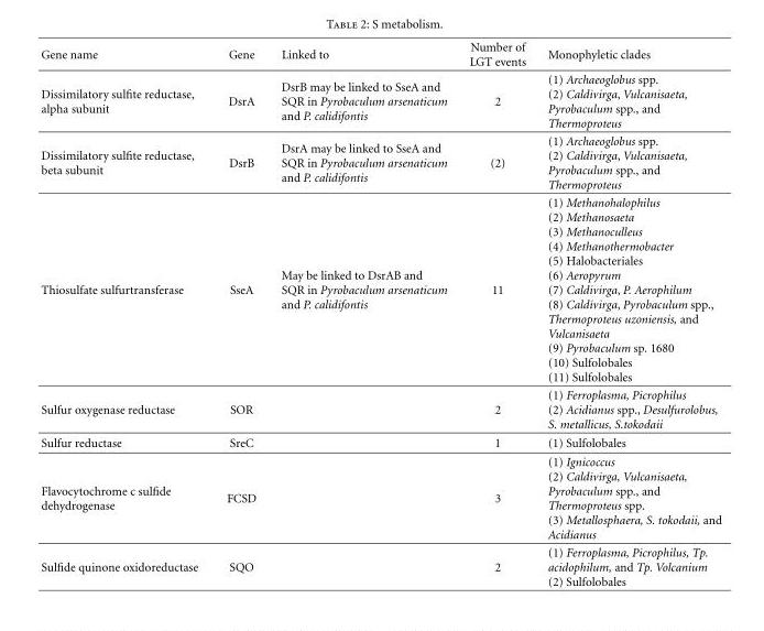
<table><thead><tr><td>Gene name</td><td>Gene</td><td>Linked to</td><td>Number of LGT events</td><td>Monophyletic clades</td></tr></thead><tbody><tr><td>Dissimilatory sulfite reductase, alpha subunit</td><td>DsrA</td><td>DsrB may be linked to SseA and SQR in Pyrobaculum arsenaticum and P. calidifontis</td><td>2</td><td>(1) Archaeoglobus spp. (2) Caldivirga, Vulcanisaeta, Pyrobaculum spp., and Thermoproteus</td></tr><tr><td>Dissimilatory sulfite reductase, beta subunit</td><td>DsrB</td><td>DsrA may be linked to SseA and SQR in Pyrobaculum arsenaticum and P. calidifontis</td><td>(2)</td><td>(1) Archaeoglobus spp. (2) Caldivirga, Vulcanisaeta, Pyrobaculum spp., and Thermoproteus</td></tr><tr><td>Thiosulfate sulfurtransferase</td><td>SseA</td><td>May be linked to DsrAB and SQR in Pyrobaculum arsenaticum and P. calidifontis</td><td>11</td><td>(1) Methanohalophilus (2) Methanosaeta (3) Methanoculleus (4) Methanothermobacter (5) Halobacteriales (6) Aeropyrum (7) Caldivirga, P. Aerophilum (8) Caldivirga, Pyrobaculum spp., Thermoproteus uzoniensis, and Vulcanisaeta (9) Pyrobaculum sp. 1680 (10) Sulfolobales (11) Sulfolobales</td></tr><tr><td>Sulfur oxygenase reductase</td><td>SOR</td><td></td><td>2</td><td>(1) Ferroplasma, Picrophilus (2) Acidianus spp., Desulfurolobus, S. metallicus, S.tokodaii</td></tr><tr><td>Sulfur reductase</td><td>SreC</td><td></td><td>1</td><td>(1) Sulfolobales</td></tr><tr><td>Flavocytochrome c sulfide dehydrogenase</td><td>FCSD</td><td></td><td>3</td><td>(1) Ignicoccus (2) Caldivirga, Vulcanisaeta, Pyrobaculum spp., and Thermoproteus spp. (3) Metallosphaera, S. tokodaii, and Acidianus</td></tr><tr><td>Sulfide quinone oxidoreductase</td><td>SQO</td><td></td><td>2</td><td>(1) Ferroplasma, Picrophilus, Tp. acidophilum, and Tp. Volcanium (2) Sulfolobales</td></tr></tbody></table>